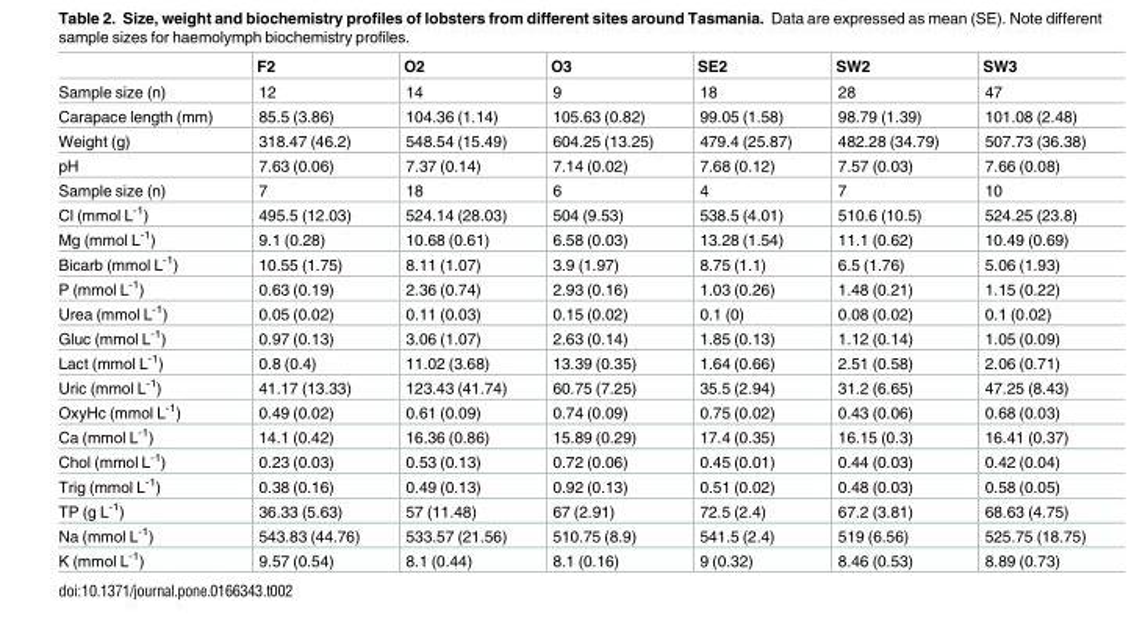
<table><thead><tr><td></td><td>F2</td><td>O2</td><td>O3</td><td>SE2</td><td>SW2</td><td>SW3</td></tr></thead><tbody><tr><td>Sample size (n)</td><td>12</td><td>14</td><td>9</td><td>18</td><td>28</td><td>47</td></tr><tr><td>Carapace length (mm)</td><td>85.5 (3.86)</td><td>104.36 (1.14)</td><td>105.63 (0.82)</td><td>99.05 (1.58)</td><td>98.79 (1.39)</td><td>101.08 (2.48)</td></tr><tr><td>Weight (g)</td><td>318.47 (46.2)</td><td>548.54 (15.49)</td><td>604.25 (13.25)</td><td>479.4 (25.87)</td><td>482.28 (34.79)</td><td>507.73 (36.38)</td></tr><tr><td>pH</td><td>7.63 (0.06)</td><td>7.37 (0.14)</td><td>7.14 (0.02)</td><td>7.68 (0.12)</td><td>7.57 (0.03)</td><td>7.66 (0.08)</td></tr><tr><td>Sample size (n)</td><td>7</td><td>18</td><td>6</td><td>4</td><td>7</td><td>10</td></tr><tr><td>Cl (mmol L<sup>-1</sup>)</td><td>495.5 (12.03)</td><td>524.14 (28.03)</td><td>504 (9.53)</td><td>538.5 (4.01)</td><td>510.6 (10.5)</td><td>524.25 (23.8)</td></tr><tr><td>Mg (mmol L<sup>-1</sup>)</td><td>9.1 (0.28)</td><td>10.68 (0.61)</td><td>6.58 (0.03)</td><td>13.28 (1.54)</td><td>11.1 (0.62)</td><td>10.49 (0.69)</td></tr><tr><td>Bicarb (mmol L<sup>-1</sup>)</td><td>10.55 (1.75)</td><td>8.11 (1.07)</td><td>3.9 (1.97)</td><td>8.75 (1.1)</td><td>6.5 (1.76)</td><td>5.06 (1.93)</td></tr><tr><td>P (mmol L<sup>-1</sup>)</td><td>0.63 (0.19)</td><td>2.36 (0.74)</td><td>2.93 (0.16)</td><td>1.03 (0.26)</td><td>1.48 (0.21)</td><td>1.15 (0.22)</td></tr><tr><td>Urea (mmol L<sup>-1</sup>)</td><td>0.05 (0.02)</td><td>0.11 (0.03)</td><td>0.15 (0.02)</td><td>0.1 (0)</td><td>0.08 (0.02)</td><td>0.1 (0.02)</td></tr><tr><td>Gluc (mmol L<sup>-1</sup>)</td><td>0.97 (0.13)</td><td>3.06 (1.07)</td><td>2.63 (0.14)</td><td>1.85 (0.13)</td><td>1.12 (0.14)</td><td>1.05 (0.09)</td></tr><tr><td>Lact (mmol L<sup>-1</sup>)</td><td>0.8 (0.4)</td><td>11.02 (3.68)</td><td>13.39 (0.35)</td><td>1.64 (0.66)</td><td>2.51 (0.58)</td><td>2.06 (0.71)</td></tr><tr><td>Uric (mmol L<sup>-1</sup>)</td><td>41.17 (13.33)</td><td>123.43 (41.74)</td><td>60.75 (7.25)</td><td>35.5 (2.94)</td><td>31.2 (6.65)</td><td>47.25 (8.43)</td></tr><tr><td>OxyHc (mmol L<sup>-1</sup>)</td><td>0.49 (0.02)</td><td>0.61 (0.09)</td><td>0.74 (0.09)</td><td>0.75 (0.02)</td><td>0.43 (0.06)</td><td>0.68 (0.03)</td></tr><tr><td>Ca (mmol L<sup>-1</sup>)</td><td>14.1 (0.42)</td><td>16.36 (0.86)</td><td>15.89 (0.29)</td><td>17.4 (0.35)</td><td>16.15 (0.3)</td><td>16.41 (0.37)</td></tr><tr><td>Chol (mmol L<sup>-1</sup>)</td><td>0.23 (0.03)</td><td>0.53 (0.13)</td><td>0.72 (0.06)</td><td>0.45 (0.01)</td><td>0.44 (0.03)</td><td>0.42 (0.04)</td></tr><tr><td>Trig (mmol L<sup>-1</sup>)</td><td>0.38 (0.16)</td><td>0.49 (0.13)</td><td>0.92 (0.13)</td><td>0.51 (0.02)</td><td>0.48 (0.03)</td><td>0.58 (0.05)</td></tr><tr><td>TP (g L<sup>-1</sup>)</td><td>36.33 (5.63)</td><td>57 (11.48)</td><td>67 (2.91)</td><td>72.5 (2.4)</td><td>67.2 (3.81)</td><td>68.63 (4.75)</td></tr><tr><td>Na (mmol L<sup>-1</sup>)</td><td>543.83 (44.76)</td><td>533.57 (21.56)</td><td>510.75 (8.9)</td><td>541.5 (2.4)</td><td>519 (6.56)</td><td>525.75 (18.75)</td></tr><tr><td>K (mmol L<sup>-1</sup>)</td><td>9.57 (0.54)</td><td>8.1 (0.44)</td><td>8.1 (0.16)</td><td>9 (0.32)</td><td>8.46 (0.53)</td><td>8.89 (0.73)</td></tr></tbody></table>